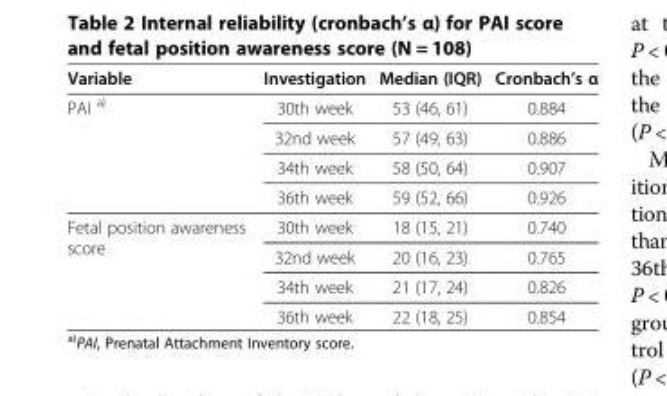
<table><thead><tr><td>Variable</td><td>Investigation</td><td>Median (IQR)</td><td>Cronbach’s α</td></tr></thead><tbody><tr><td rowspan="4">PAI <sup>a)</sup></td><td>30th week</td><td>53 (46, 61)</td><td>0.884</td></tr><tr><td>32nd week</td><td>57 (49, 63)</td><td>0.886</td></tr><tr><td>34th week</td><td>58 (50, 64)</td><td>0.907</td></tr><tr><td>36th week</td><td>59 (52, 66)</td><td>0.926</td></tr><tr><td rowspan="4">Fetal position awareness score</td><td>30th week</td><td>18 (15, 21)</td><td>0.740</td></tr><tr><td>32nd week</td><td>20 (16, 23)</td><td>0.765</td></tr><tr><td>34th week</td><td>21 (17, 24)</td><td>0.826</td></tr><tr><td>36th week</td><td>22 (18, 25)</td><td>0.854</td></tr></tbody></table>